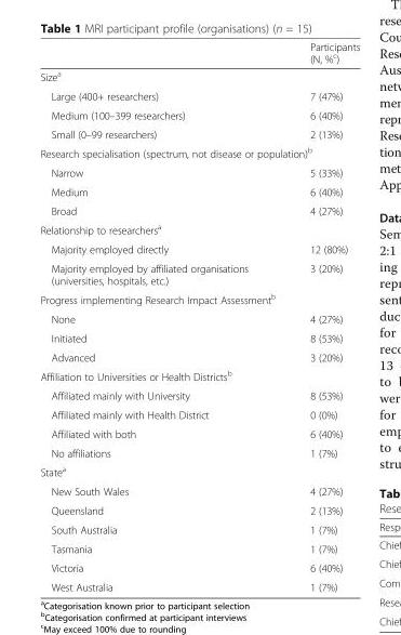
<table><thead><tr><td></td><td>Participants (N, %<sup>c</sup>)</td></tr></thead><tbody><tr><td colspan="2">Size<sup>a</sup></td></tr><tr><td>Large (400+ researchers)</td><td>7 (47%)</td></tr><tr><td>Medium (100–399 researchers)</td><td>6 (40%)</td></tr><tr><td>Small (0–99 researchers)</td><td>2 (13%)</td></tr><tr><td colspan="2">Research specialisation (spectrum, not disease or population)<sup>b</sup></td></tr><tr><td>Narrow</td><td>5 (33%)</td></tr><tr><td>Medium</td><td>6 (40%)</td></tr><tr><td>Broad</td><td>4 (27%)</td></tr><tr><td colspan="2">Relationship to researchers<sup>a</sup></td></tr><tr><td>Majority employed directly</td><td>12 (80%)</td></tr><tr><td>Majority employed by affiliated organisations (universities, hospitals, etc.)</td><td>3 (20%)</td></tr><tr><td colspan="2">Progress implementing Research Impact Assessment<sup>b</sup></td></tr><tr><td>None</td><td>4 (27%)</td></tr><tr><td>Initiated</td><td>8 (53%)</td></tr><tr><td>Advanced</td><td>3 (20%)</td></tr><tr><td colspan="2">Affiliation to Universities or Health Districts<sup>b</sup></td></tr><tr><td>Affiliated mainly with University</td><td>8 (53%)</td></tr><tr><td>Affiliated mainly with Health District</td><td>0 (0%)</td></tr><tr><td>Affiliated with both</td><td>6 (40%)</td></tr><tr><td>No affiliations</td><td>1 (7%)</td></tr><tr><td colspan="2">State<sup>a</sup></td></tr><tr><td>New South Wales</td><td>4 (27%)</td></tr><tr><td>Queensland</td><td>2 (13%)</td></tr><tr><td>South Australia</td><td>1 (7%)</td></tr><tr><td>Tasmania</td><td>1 (7%)</td></tr><tr><td>Victoria</td><td>6 (40%)</td></tr><tr><td>West Australia</td><td>1 (7%)</td></tr></tbody></table>